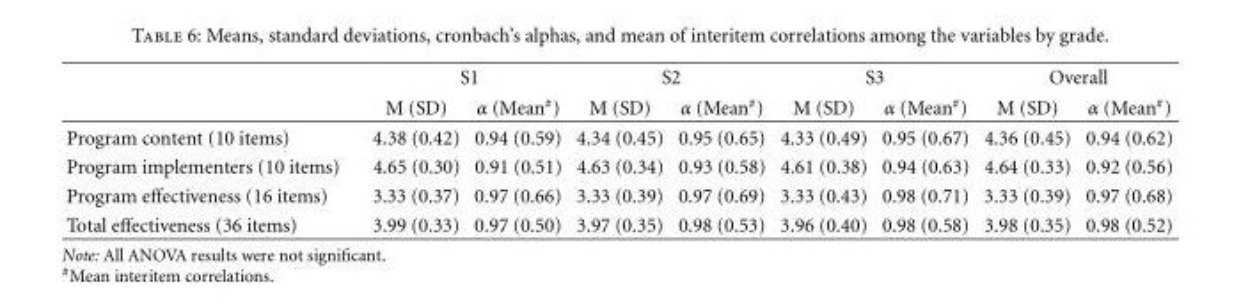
<table><thead><tr><td rowspan="2"></td><td colspan="2">S1</td><td colspan="2">S2</td><td colspan="2">S3</td><td colspan="2">Overall</td></tr><tr><td>M (SD)</td><td>α (Mean<sup>#</sup>)</td><td>M (SD)</td><td>α (Mean<sup>#</sup>)</td><td>M (SD)</td><td>α (Mean<sup>#</sup>)</td><td>M (SD)</td><td>α (Mean<sup>#</sup>)</td></tr></thead><tbody><tr><td>Program content (10 items)</td><td>4.38 (0.42)</td><td>0.94 (0.59)</td><td>4.34 (0.45)</td><td>0.95 (0.65)</td><td>4.33 (0.49)</td><td>0.95 (0.67)</td><td>4.36 (0.45)</td><td>0.94 (0.62)</td></tr><tr><td>Program implementers (10 items)</td><td>4.65 (0.30)</td><td>0.91 (0.51)</td><td>4.63 (0.34)</td><td>0.93 (0.58)</td><td>4.61 (0.38)</td><td>0.94 (0.63)</td><td>4.64 (0.33)</td><td>0.92 (0.56)</td></tr><tr><td>Program effectiveness (16 items)</td><td>3.33 (0.37)</td><td>0.97 (0.66)</td><td>3.33 (0.39)</td><td>0.97 (0.69)</td><td>3.33 (0.43)</td><td>0.98 (0.71)</td><td>3.33 (0.39)</td><td>0.97 (0.68)</td></tr><tr><td>Total effectiveness (36 items)</td><td>3.99 (0.33)</td><td>0.97 (0.50)</td><td>3.97 (0.35)</td><td>0.98 (0.53)</td><td>3.96 (0.40)</td><td>0.98 (0.58)</td><td>3.98 (0.35)</td><td>0.98 (0.52)</td></tr></tbody></table>